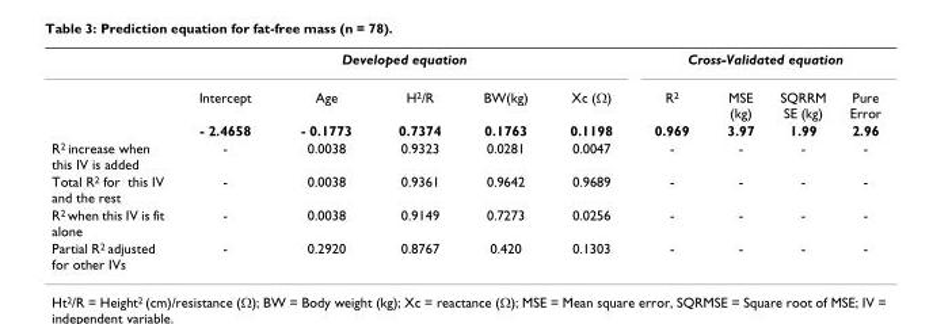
<table><thead><tr><td rowspan="2"></td><td colspan="5">Developed equation</td><td colspan="4">Cross-Validated equation</td></tr><tr><td>Intercept</td><td>Age</td><td>H<sup>2</sup>/R</td><td>BW(kg)</td><td>Xc (Ω)</td><td>R<sup>2</sup></td><td>MSE (kg)</td><td>SQRRM SE (kg)</td><td>Pure Error</td></tr></thead><tbody><tr><td></td><td>- 2.4658</td><td>- 0.1773</td><td>0.7374</td><td>0.1763</td><td>0.1198</td><td>0.969</td><td>3.97</td><td>1.99</td><td>2.96</td></tr><tr><td>R<sup>2</sup> increase when this IV is added</td><td>-</td><td>0.0038</td><td>0.9323</td><td>0.0281</td><td>0.0047</td><td>-</td><td>-</td><td>-</td><td>-</td></tr><tr><td>Total R<sup>2</sup> for this IV and the rest</td><td>-</td><td>0.0038</td><td>0.9361</td><td>0.9642</td><td>0.9689</td><td>-</td><td>-</td><td>-</td><td>-</td></tr><tr><td>R<sup>2</sup> when this IV is fit alone</td><td>-</td><td>0.0038</td><td>0.9149</td><td>0.7273</td><td>0.0256</td><td>-</td><td>-</td><td>-</td><td>-</td></tr><tr><td>Partial R<sup>2</sup> adjusted for other IVs</td><td>-</td><td>0.2920</td><td>0.8767</td><td>0.420</td><td>0.1303</td><td>-</td><td>-</td><td>-</td><td>-</td></tr></tbody></table>